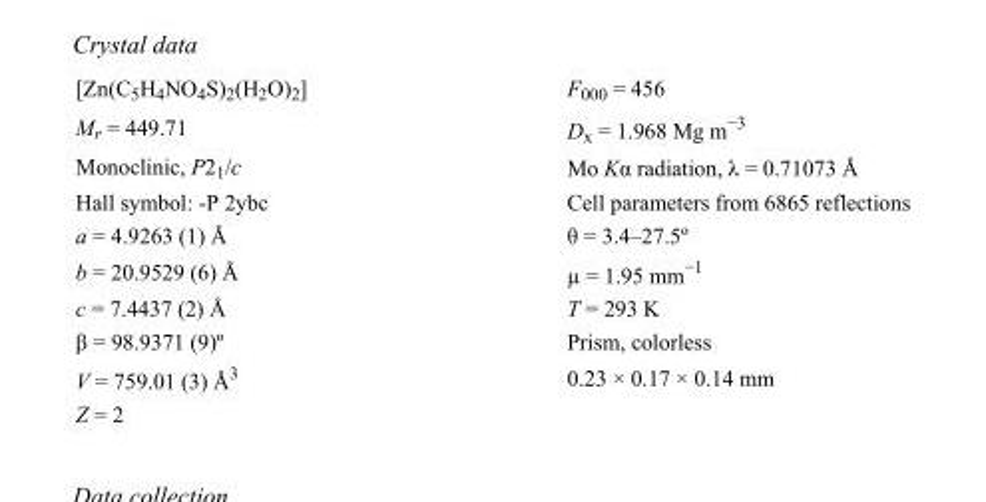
<table><tbody><tr><td>[Zn(C<sub>5</sub>H<sub>4</sub>NO<sub>4</sub>S)<sub>2</sub>(H<sub>2</sub>O)<sub>2</sub>]</td><td>F000 = 456</td></tr><tr><td>M<sub>r</sub> = 449.71</td><td>D<sub>x</sub> = 1.968 Mg m<sup>−3</sup></td></tr><tr><td>Monoclinic, P2<sub>1</sub>/c</td><td>Mo Kα radiation, λ = 0.71073 Å</td></tr><tr><td>Hall symbol: -P 2ybc</td><td>Cell parameters from 6865 reflections</td></tr><tr><td>a = 4.9263 (1) Å</td><td>θ = 3.4–27.5º</td></tr><tr><td>b = 20.9529 (6) Å</td><td>µ = 1.95 mm<sup>−1</sup></td></tr><tr><td>c = 7.4437 (2) Å</td><td>T = 293 K</td></tr><tr><td>β = 98.9371 (9)º</td><td>Prism, colorless</td></tr><tr><td>V = 759.01 (3) Å<sup>3</sup></td><td>0.23 × 0.17 × 0.14 mm</td></tr><tr><td>Z = 2</td><td></td></tr></tbody></table>